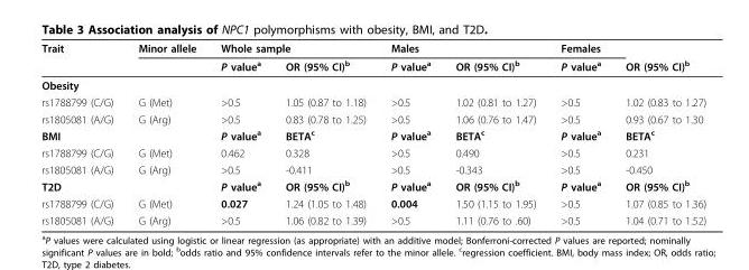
<table><thead><tr><td rowspan="2">Trait</td><td rowspan="2">Minor allele</td><td colspan="2">Whole sample</td><td colspan="2">Males</td><td colspan="2">Females</td></tr><tr><td>P value<sup>a</sup></td><td>OR (95% CI)<sup>b</sup></td><td>P value<sup>a</sup></td><td>OR (95% CI)<sup>b</sup></td><td>P value<sup>a</sup></td><td>OR (95% CI)<sup>b</sup></td></tr></thead><tbody><tr><td colspan="8">Obesity</td></tr><tr><td>rs1788799 (C/G)</td><td>G (Met)</td><td>&gt;0.5</td><td>1.05 (0.87 to 1.18)</td><td>&gt;0.5</td><td>1.02 (0.81 to 1.27)</td><td>&gt;0.5</td><td>1.02 (0.83 to 1.27)</td></tr><tr><td>rs1805081 (A/G)</td><td>G (Arg)</td><td>&gt;0.5</td><td>0.83 (0.78 to 1.25)</td><td>&gt;0.5</td><td>1.06 (0.76 to 1.47)</td><td>&gt;0.5</td><td>0.93 (0.67 to 1.30</td></tr><tr><td>BMI</td><td></td><td>P value<sup>a</sup></td><td>BETA<sup>c</sup></td><td>P value<sup>a</sup></td><td>BETA<sup>c</sup></td><td>P value<sup>a</sup></td><td>BETA<sup>c</sup></td></tr><tr><td>rs1788799 (C/G)</td><td>G (Met)</td><td>0.462</td><td>0.328</td><td>&gt;0.5</td><td>0.490</td><td>&gt;0.5</td><td>0.231</td></tr><tr><td>rs1805081 (A/G)</td><td>G (Arg)</td><td>&gt;0.5</td><td>-0.411</td><td>&gt;0.5</td><td>-0.343</td><td>&gt;0.5</td><td>-0.450</td></tr><tr><td>T2D</td><td></td><td>P value<sup>a</sup></td><td>OR (95% CI)<sup>b</sup></td><td>P value<sup>a</sup></td><td>OR (95% CI)<sup>b</sup></td><td>P value<sup>a</sup></td><td>OR (95% CI)<sup>b</sup></td></tr><tr><td>rs1788799 (C/G)</td><td>G (Met)</td><td>0.027</td><td>1.24 (1.05 to 1.48)</td><td>0.004</td><td>1.50 (1.15 to 1.95)</td><td>&gt;0.5</td><td>1.07 (0.85 to 1.36)</td></tr><tr><td>rs1805081 (A/G)</td><td>G (Arg)</td><td>&gt;0.5</td><td>1.06 (0.82 to 1.39)</td><td>&gt;0.5</td><td>1.11 (0.76 to .60)</td><td>&gt;0.5</td><td>1.04 (0.71 to 1.52)</td></tr></tbody></table>